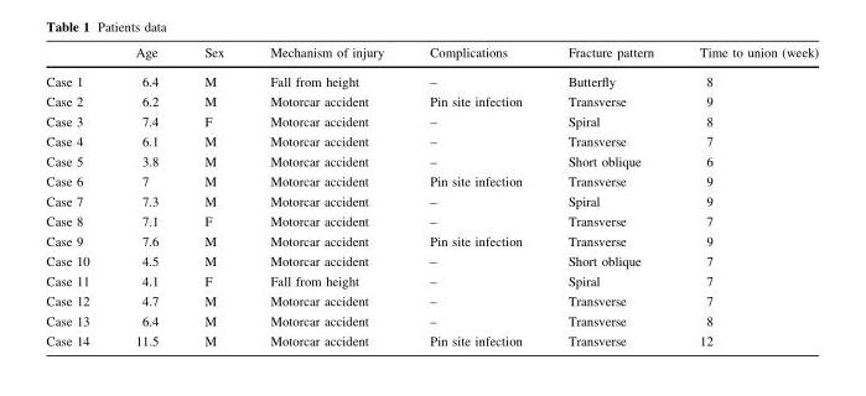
<table><thead><tr><td></td><td>Age</td><td>Sex</td><td>Mechanism of injury</td><td>Complications</td><td>Fracture pattern</td><td>Time to union (week)</td></tr></thead><tbody><tr><td>Case 1</td><td>6.4</td><td>M</td><td>Fall from height</td><td>–</td><td>Butterfly</td><td>8</td></tr><tr><td>Case 2</td><td>6.2</td><td>M</td><td>Motorcar accident</td><td>Pin site infection</td><td>Transverse</td><td>9</td></tr><tr><td>Case 3</td><td>7.4</td><td>F</td><td>Motorcar accident</td><td>–</td><td>Spiral</td><td>8</td></tr><tr><td>Case 4</td><td>6.1</td><td>M</td><td>Motorcar accident</td><td>–</td><td>Transverse</td><td>7</td></tr><tr><td>Case 5</td><td>3.8</td><td>M</td><td>Motorcar accident</td><td>–</td><td>Short oblique</td><td>6</td></tr><tr><td>Case 6</td><td>7</td><td>M</td><td>Motorcar accident</td><td>Pin site infection</td><td>Transverse</td><td>9</td></tr><tr><td>Case 7</td><td>7.3</td><td>M</td><td>Motorcar accident</td><td>–</td><td>Spiral</td><td>9</td></tr><tr><td>Case 8</td><td>7.1</td><td>F</td><td>Motorcar accident</td><td>–</td><td>Transverse</td><td>7</td></tr><tr><td>Case 9</td><td>7.6</td><td>M</td><td>Motorcar accident</td><td>Pin site infection</td><td>Transverse</td><td>9</td></tr><tr><td>Case 10</td><td>4.5</td><td>M</td><td>Motorcar accident</td><td>–</td><td>Short oblique</td><td>7</td></tr><tr><td>Case 11</td><td>4.1</td><td>F</td><td>Fall from height</td><td>–</td><td>Spiral</td><td>7</td></tr><tr><td>Case 12</td><td>4.7</td><td>M</td><td>Motorcar accident</td><td>–</td><td>Transverse</td><td>7</td></tr><tr><td>Case 13</td><td>6.4</td><td>M</td><td>Motorcar accident</td><td>–</td><td>Transverse</td><td>8</td></tr><tr><td>Case 14</td><td>11.5</td><td>M</td><td>Motorcar accident</td><td>Pin site infection</td><td>Transverse</td><td>12</td></tr></tbody></table>